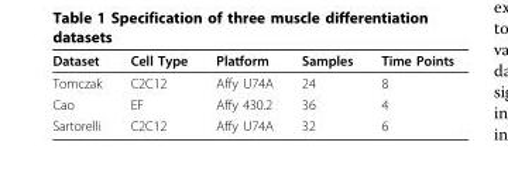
<table><thead><tr><td>Dataset</td><td>Cell Type</td><td>Platform</td><td>Samples</td><td>Time Points</td></tr></thead><tbody><tr><td>Tomczak</td><td>C2C12</td><td>Affy U74A</td><td>24</td><td>8</td></tr><tr><td>Cao</td><td>EF</td><td>Affy 430.2</td><td>36</td><td>4</td></tr><tr><td>Sartorelli</td><td>C2C12</td><td>Affy U74A</td><td>32</td><td>6</td></tr></tbody></table>